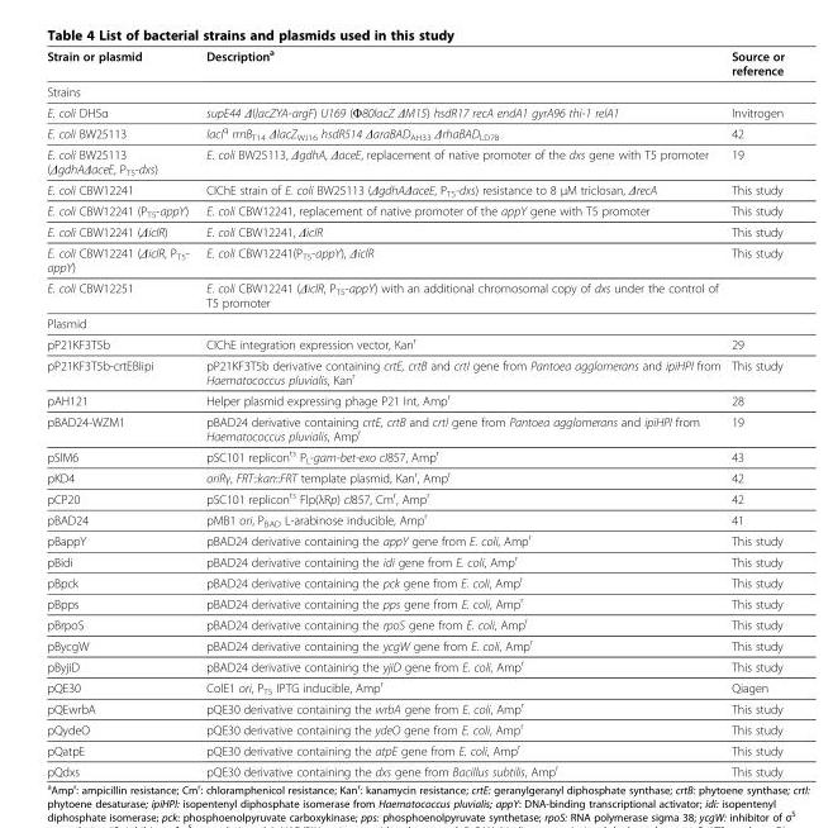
<table><thead><tr><td>Strain or plasmid</td><td>Description<sup>a</sup></td><td>Source or reference</td></tr></thead><tbody><tr><td colspan="3">Strains</td></tr><tr><td>E. coli DH5α</td><td>supE44 Δ(lacZYA-argF) U169 (Φ80lacZ ΔM15) hsdR17 recA endA1 gyrA96 thi-1 relA1</td><td>Invitrogen</td></tr><tr><td>E. coli BW25113</td><td>lacI<sup>q</sup> rrnB<sub>T14</sub> ΔlacZ<sub>WJ16</sub> hsdR514 ΔaraBAD<sub>AH33</sub> ΔrhaBAD<sub>LD78</sub></td><td>42</td></tr><tr><td>E. coli BW25113 (ΔgdhAΔaceE, P<sub>T5</sub>-dxs)</td><td>E. coli BW25113, ΔgdhA, ΔaceE, replacement of native promoter of the dxs gene with T5 promoter</td><td>19</td></tr><tr><td>E. coli CBW12241</td><td>CIChE strain of E. coli BW25113 (ΔgdhAΔaceE, P<sub>T5</sub>-dxs) resistance to 8 μM triclosan, ΔrecA</td><td>This study</td></tr><tr><td>E. coli CBW12241 (P<sub>T5</sub>-appY)</td><td>E. coli CBW12241, replacement of native promoter of the appY gene with T5 promoter</td><td>This study</td></tr><tr><td>E. coli CBW12241 (ΔiclR)</td><td>E. coli CBW12241, ΔiclR</td><td>This study</td></tr><tr><td>E. coli CBW12241 (ΔiclR, P<sub>T5</sub>- appY)</td><td>E. coli CBW12241(P<sub>T5</sub>-appY), ΔiclR</td><td>This study</td></tr><tr><td>E. coli CBW12251</td><td>E. coli CBW12241 (ΔiclR, P<sub>T5</sub>-appY) with an additional chromosomal copy of dxs under the control of T5 promoter</td><td></td></tr><tr><td colspan="3">Plasmid</td></tr><tr><td>pP21KF3T5b</td><td>CIChE integration expression vector, Kan<sup>r</sup></td><td>29</td></tr><tr><td>pP21KF3T5b-crtEBIipi</td><td>pP21KF3T5b derivative containing crtE, crtB and crtI gene from Pantoea agglomerans and ipiHPI from Haematococcus pluvialis, Kan<sup>r</sup></td><td>This study</td></tr><tr><td>pAH121</td><td>Helper plasmid expressing phage P21 Int, Amp<sup>r</sup></td><td>28</td></tr><tr><td>pBAD24-WZM1</td><td>pBAD24 derivative containing crtE, crtB and crtI gene from Pantoea agglomerans and ipiHPI from Haematococcus pluvialis, Amp<sup>r</sup></td><td>19</td></tr><tr><td>pSIM6</td><td>pSC101 replicon<sup>ts</sup> P<sub>L</sub>-gam-bet-exo cI857, Amp<sup>r</sup></td><td>43</td></tr><tr><td>pKD4</td><td>oriRγ, FRT::kan::FRT template plasmid, Kan<sup>r</sup>, Amp<sup>r</sup></td><td>42</td></tr><tr><td>pCP20</td><td>pSC101 replicon<sup>ts</sup> Flp(λRp) cI857, Cm<sup>r</sup>, Amp<sup>r</sup></td><td>42</td></tr><tr><td>pBAD24</td><td>pMB1 ori, P<sub>BAD</sub> L-arabinose inducible, Amp<sup>r</sup></td><td>41</td></tr><tr><td>pBappY</td><td>pBAD24 derivative containing the appY gene from E. coli, Amp<sup>r</sup></td><td>This study</td></tr><tr><td>pBidi</td><td>pBAD24 derivative containing the idi gene from E. coli, Amp<sup>r</sup></td><td>This study</td></tr><tr><td>pBpck</td><td>pBAD24 derivative containing the pck gene from E. coli, Amp<sup>r</sup></td><td>This study</td></tr><tr><td>pBpps</td><td>pBAD24 derivative containing the pps gene from E. coli, Amp<sup>r</sup></td><td>This study</td></tr><tr><td>pBrpoS</td><td>pBAD24 derivative containing the rpoS gene from E. coli, Amp<sup>r</sup></td><td>This study</td></tr><tr><td>pBycgW</td><td>pBAD24 derivative containing the ycgW gene from E. coli, Amp<sup>r</sup></td><td>This study</td></tr><tr><td>pByjiD</td><td>pBAD24 derivative containing the yjiD gene from E. coli, Amp<sup>r</sup></td><td>This study</td></tr><tr><td>pQE30</td><td>ColE1 ori, P<sub>T5</sub> IPTG inducible, Amp<sup>r</sup></td><td>Qiagen</td></tr><tr><td>pQEwrbA</td><td>pQE30 derivative containing the wrbA gene from E. coli, Amp<sup>r</sup></td><td>This study</td></tr><tr><td>pQydeO</td><td>pQE30 derivative containing the ydeO gene from E. coli, Amp<sup>r</sup></td><td>This study</td></tr><tr><td>pQatpE</td><td>pQE30 derivative containing the atpE gene from E. coli, Amp<sup>r</sup></td><td>This study</td></tr><tr><td>pQdxs</td><td>pQE30 derivative containing the dxs gene from Bacillus subtilis, Amp<sup>r</sup></td><td>This study</td></tr></tbody></table>